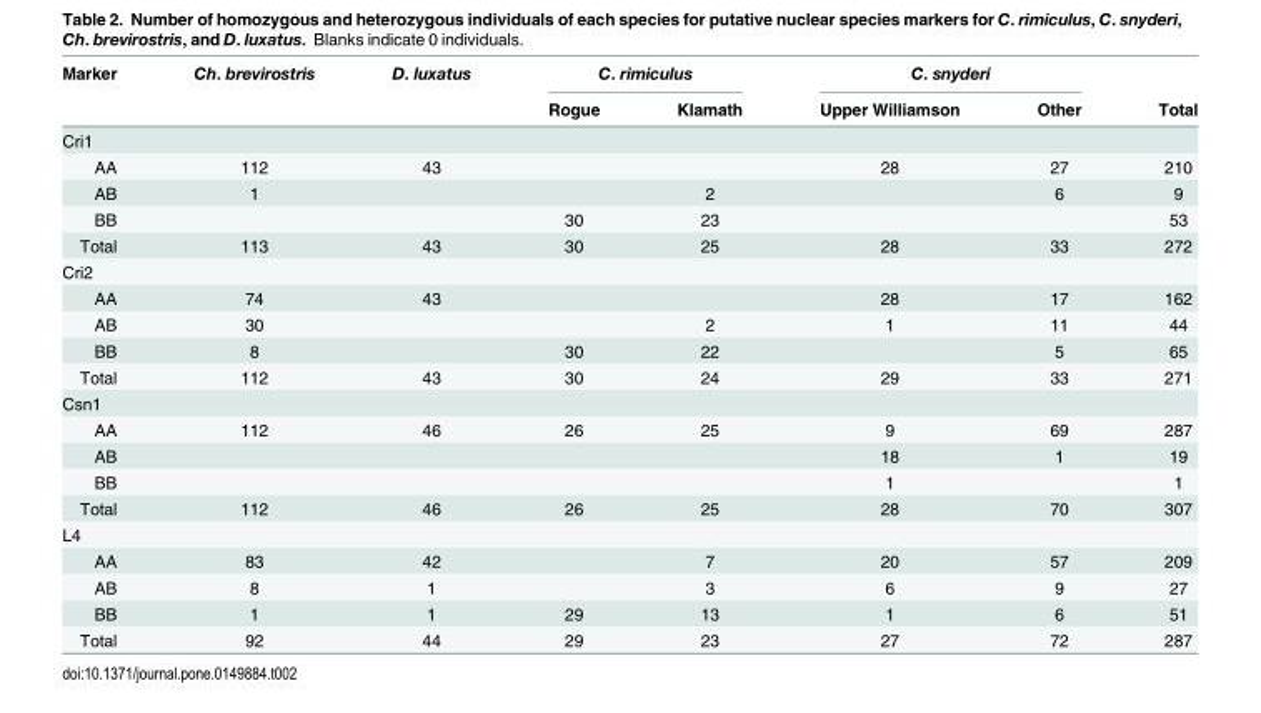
<table><thead><tr><td rowspan="2">Marker</td><td rowspan="2">Ch. brevirostris</td><td rowspan="2">D. luxatus</td><td colspan="2">C. rimiculus</td><td colspan="2">C. snyderi</td><td rowspan="2">Total</td></tr><tr><td>Rogue</td><td>Klamath</td><td>Upper Williamson</td><td>Other</td></tr></thead><tbody><tr><td colspan="8">Cri1</td></tr><tr><td>AA</td><td>112</td><td>43</td><td></td><td></td><td>28</td><td>27</td><td>210</td></tr><tr><td>AB</td><td>1</td><td></td><td></td><td>2</td><td></td><td>6</td><td>9</td></tr><tr><td>BB</td><td></td><td></td><td>30</td><td>23</td><td></td><td></td><td>53</td></tr><tr><td>Total</td><td>113</td><td>43</td><td>30</td><td>25</td><td>28</td><td>33</td><td>272</td></tr><tr><td colspan="8">Cri2</td></tr><tr><td>AA</td><td>74</td><td>43</td><td></td><td></td><td>28</td><td>17</td><td>162</td></tr><tr><td>AB</td><td>30</td><td></td><td></td><td>2</td><td>1</td><td>11</td><td>44</td></tr><tr><td>BB</td><td>8</td><td></td><td>30</td><td>22</td><td></td><td>5</td><td>65</td></tr><tr><td>Total</td><td>112</td><td>43</td><td>30</td><td>24</td><td>29</td><td>33</td><td>271</td></tr><tr><td colspan="8">Csn1</td></tr><tr><td>AA</td><td>112</td><td>46</td><td>26</td><td>25</td><td>9</td><td>69</td><td>287</td></tr><tr><td>AB</td><td></td><td></td><td></td><td></td><td>18</td><td>1</td><td>19</td></tr><tr><td>BB</td><td></td><td></td><td></td><td></td><td>1</td><td></td><td>1</td></tr><tr><td>Total</td><td>112</td><td>46</td><td>26</td><td>25</td><td>28</td><td>70</td><td>307</td></tr><tr><td colspan="8">L4</td></tr><tr><td>AA</td><td>83</td><td>42</td><td></td><td>7</td><td>20</td><td>57</td><td>209</td></tr><tr><td>AB</td><td>8</td><td>1</td><td></td><td>3</td><td>6</td><td>9</td><td>27</td></tr><tr><td>BB</td><td>1</td><td>1</td><td>29</td><td>13</td><td>1</td><td>6</td><td>51</td></tr><tr><td>Total</td><td>92</td><td>44</td><td>29</td><td>23</td><td>27</td><td>72</td><td>287</td></tr></tbody></table>